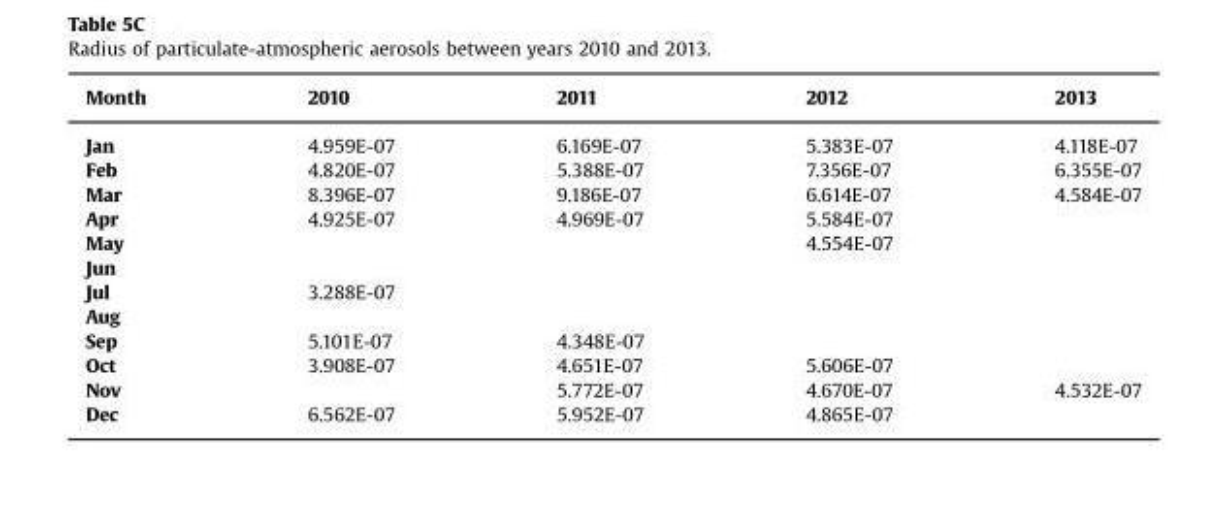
<table><thead><tr><td>Month</td><td>2010</td><td>2011</td><td>2012</td><td>2013</td></tr></thead><tbody><tr><td>Jan</td><td>4.959E-07</td><td>6.169E-07</td><td>5.383E-07</td><td>4.118E-07</td></tr><tr><td>Feb</td><td>4.820E-07</td><td>5.388E-07</td><td>7.356E-07</td><td>6.355E-07</td></tr><tr><td>Mar</td><td>8.396E-07</td><td>9.186E-07</td><td>6.614E-07</td><td>4.584E-07</td></tr><tr><td>Apr</td><td>4.925E-07</td><td>4.969E-07</td><td>5.584E-07</td><td></td></tr><tr><td>May</td><td></td><td></td><td>4.554E-07</td><td></td></tr><tr><td colspan="5">Jun</td></tr><tr><td>Jul</td><td>3.288E-07</td><td></td><td></td><td></td></tr><tr><td colspan="5">Aug</td></tr><tr><td>Sep</td><td>5.101E-07</td><td>4.348E-07</td><td></td><td></td></tr><tr><td>Oct</td><td>3.908E-07</td><td>4.651E-07</td><td>5.606E-07</td><td></td></tr><tr><td>Nov</td><td></td><td>5.772E-07</td><td>4.670E-07</td><td>4.532E-07</td></tr><tr><td>Dec</td><td>6.562E-07</td><td>5.952E-07</td><td>4.865E-07</td><td></td></tr></tbody></table>